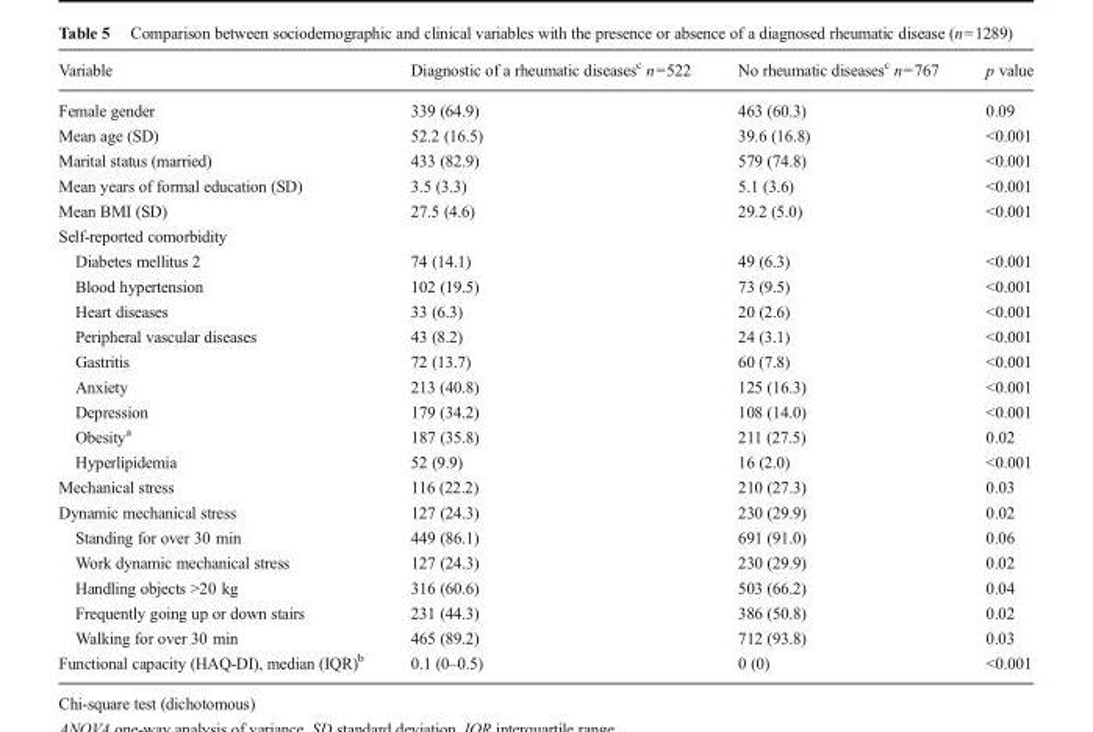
<table><thead><tr><td>Variable</td><td>Diagnostic of a rheumatic diseases<sup>c</sup> n=522</td><td>No rheumatic diseases<sup>c</sup> n=767</td><td>p value</td></tr></thead><tbody><tr><td>Female gender</td><td>339 (64.9)</td><td>463 (60.3)</td><td>0.09</td></tr><tr><td>Mean age (SD)</td><td>52.2 (16.5)</td><td>39.6 (16.8)</td><td>&lt;0.001</td></tr><tr><td>Marital status (married)</td><td>433 (82.9)</td><td>579 (74.8)</td><td>&lt;0.001</td></tr><tr><td>Mean years of formal education (SD)</td><td>3.5 (3.3)</td><td>5.1 (3.6)</td><td>&lt;0.001</td></tr><tr><td>Mean BMI (SD)</td><td>27.5 (4.6)</td><td>29.2 (5.0)</td><td>&lt;0.001</td></tr><tr><td colspan="4">Self-reported comorbidity</td></tr><tr><td>Diabetes mellitus 2</td><td>74 (14.1)</td><td>49 (6.3)</td><td>&lt;0.001</td></tr><tr><td>Blood hypertension</td><td>102 (19.5)</td><td>73 (9.5)</td><td>&lt;0.001</td></tr><tr><td>Heart diseases</td><td>33 (6.3)</td><td>20 (2.6)</td><td>&lt;0.001</td></tr><tr><td>Peripheral vascular diseases</td><td>43 (8.2)</td><td>24 (3.1)</td><td>&lt;0.001</td></tr><tr><td>Gastritis</td><td>72 (13.7)</td><td>60 (7.8)</td><td>&lt;0.001</td></tr><tr><td>Anxiety</td><td>213 (40.8)</td><td>125 (16.3)</td><td>&lt;0.001</td></tr><tr><td>Depression</td><td>179 (34.2)</td><td>108 (14.0)</td><td>&lt;0.001</td></tr><tr><td>Obesity<sup>a</sup></td><td>187 (35.8)</td><td>211 (27.5)</td><td>0.02</td></tr><tr><td>Hyperlipidemia</td><td>52 (9.9)</td><td>16 (2.0)</td><td>&lt;0.001</td></tr><tr><td>Mechanical stress</td><td>116 (22.2)</td><td>210 (27.3)</td><td>0.03</td></tr><tr><td>Dynamic mechanical stress</td><td>127 (24.3)</td><td>230 (29.9)</td><td>0.02</td></tr><tr><td>Standing for over 30 min</td><td>449 (86.1)</td><td>691 (91.0)</td><td>0.06</td></tr><tr><td>Work dynamic mechanical stress</td><td>127 (24.3)</td><td>230 (29.9)</td><td>0.02</td></tr><tr><td>Handling objects &gt;20 kg</td><td>316 (60.6)</td><td>503 (66.2)</td><td>0.04</td></tr><tr><td>Frequently going up or down stairs</td><td>231 (44.3)</td><td>386 (50.8)</td><td>0.02</td></tr><tr><td>Walking for over 30 min</td><td>465 (89.2)</td><td>712 (93.8)</td><td>0.03</td></tr><tr><td>Functional capacity (HAQ-DI), median (IQR)<sup>b</sup></td><td>0.1 (0–0.5)</td><td>0 (0)</td><td>&lt;0.001</td></tr></tbody></table>